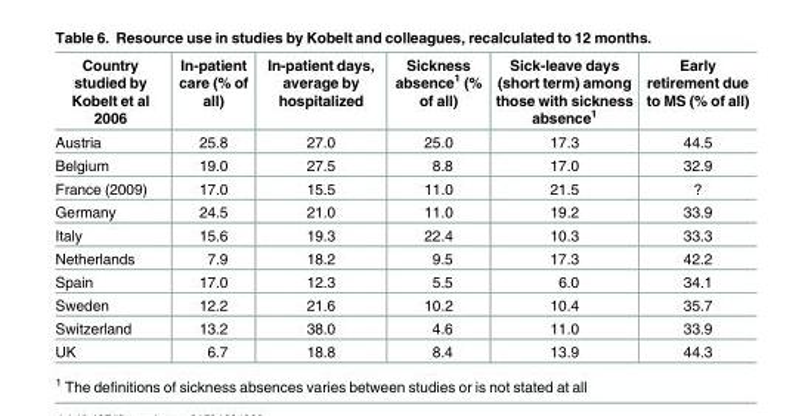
<table><thead><tr><td>Country studied by Kobelt et al 2006</td><td>In-patient care (% of all)</td><td>In-patient days, average by hospitalized</td><td>Sickness absence<sup>1</sup> (% of all)</td><td>Sick-leave days (short term) among those with sickness absence<sup>1</sup></td><td>Early retirement due to MS (% of all)</td></tr></thead><tbody><tr><td>Austria</td><td>25.8</td><td>27.0</td><td>25.0</td><td>17.3</td><td>44.5</td></tr><tr><td>Belgium</td><td>19.0</td><td>27.5</td><td>8.8</td><td>17.0</td><td>32.9</td></tr><tr><td>France (2009)</td><td>17.0</td><td>15.5</td><td>11.0</td><td>21.5</td><td>?</td></tr><tr><td>Germany</td><td>24.5</td><td>21.0</td><td>11.0</td><td>19.2</td><td>33.9</td></tr><tr><td>Italy</td><td>15.6</td><td>19.3</td><td>22.4</td><td>10.3</td><td>33.3</td></tr><tr><td>Netherlands</td><td>7.9</td><td>18.2</td><td>9.5</td><td>17.3</td><td>42.2</td></tr><tr><td>Spain</td><td>17.0</td><td>12.3</td><td>5.5</td><td>6.0</td><td>34.1</td></tr><tr><td>Sweden</td><td>12.2</td><td>21.6</td><td>10.2</td><td>10.4</td><td>35.7</td></tr><tr><td>Switzerland</td><td>13.2</td><td>38.0</td><td>4.6</td><td>11.0</td><td>33.9</td></tr><tr><td>UK</td><td>6.7</td><td>18.8</td><td>8.4</td><td>13.9</td><td>44.3</td></tr></tbody></table>